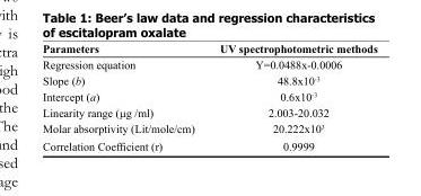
<table><thead><tr><td>Parameters</td><td>UV spectrophotometric methods</td></tr></thead><tbody><tr><td>Regression equation</td><td>Y=0.0488x-0.0006</td></tr><tr><td>Slope (b)</td><td>48.8x10-3</td></tr><tr><td>Intercept (a)</td><td>0.6x10-3</td></tr><tr><td>Linearity range (µg /ml)</td><td>2.003-20.032</td></tr><tr><td>Molar absorptivity (Lit/mole/cm)</td><td>20.222x103</td></tr><tr><td>Correlation Coefficient (r)</td><td>0.9999</td></tr></tbody></table>